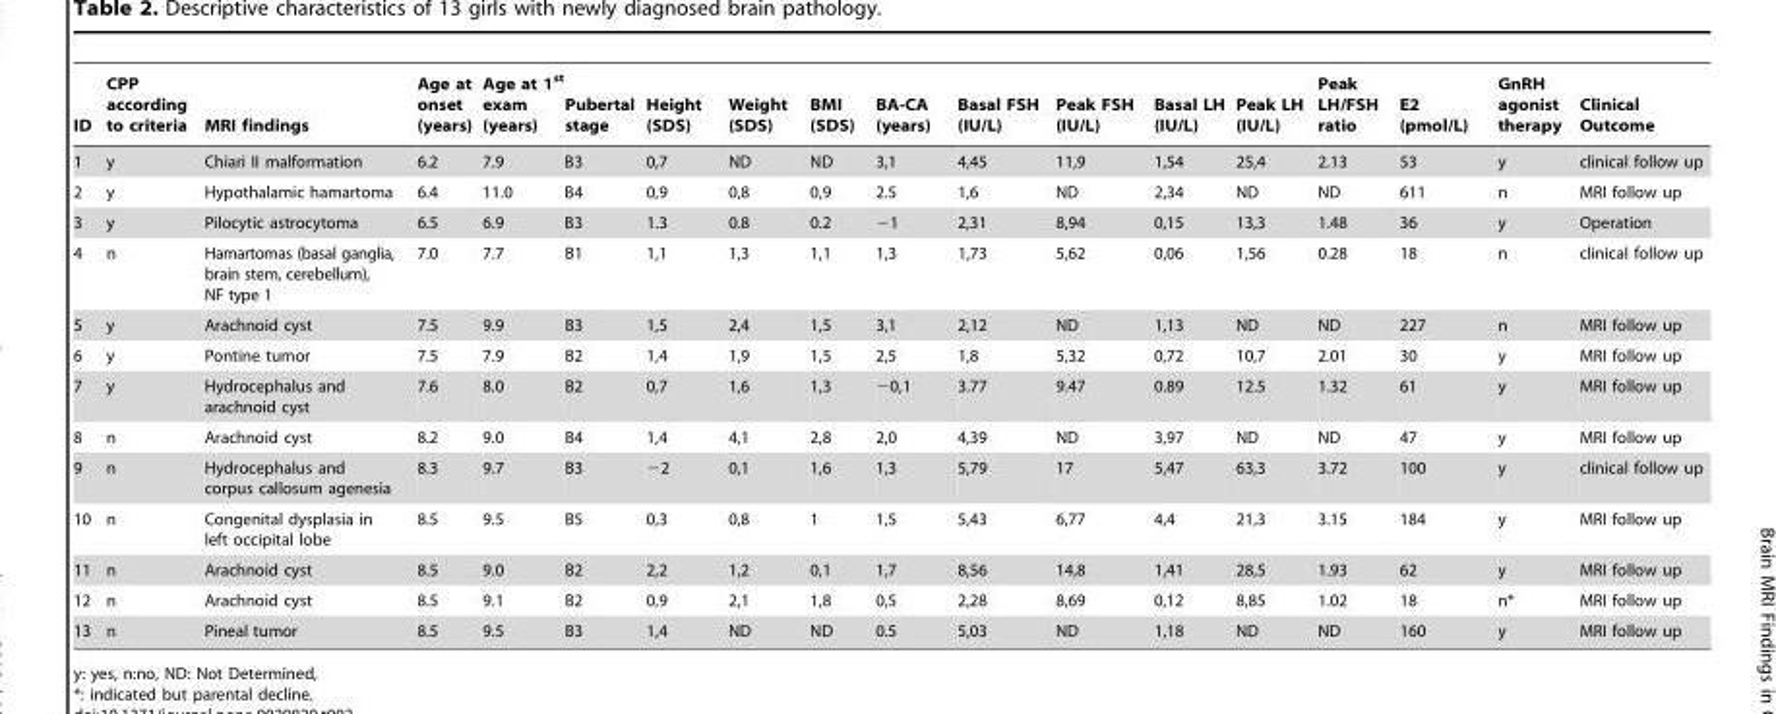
<table><thead><tr><td>ID</td><td>CPP according to criteria</td><td>MRI findings</td><td>Age at onset (years)</td><td>Age at 1<sup>st</sup> exam (years)</td><td>Pubertal stage</td><td>Height (SDS)</td><td>Weight (SDS)</td><td>BMI (SDS)</td><td>BA-CA (years)</td><td>Basal FSH (IU/L)</td><td>Peak FSH (IU/L)</td><td>Basal LH (IU/L)</td><td>Peak LH (IU/L)</td><td>Peak LH/FSH ratio</td><td>E2 (pmol/L)</td><td>GnRH agonist therapy</td><td>Clinical Outcome</td></tr></thead><tbody><tr><td>1</td><td>y</td><td>Chiari II malformation</td><td>6.2</td><td>7.9</td><td>B3</td><td>0,7</td><td>ND</td><td>ND</td><td>3,1</td><td>4,45</td><td>11,9</td><td>1,54</td><td>25,4</td><td>2.13</td><td>53</td><td>y</td><td>clinical follow up</td></tr><tr><td>2</td><td>y</td><td>Hypothalamic hamartoma</td><td>6.4</td><td>11.0</td><td>B4</td><td>0,9</td><td>0,8</td><td>0,9</td><td>2.5</td><td>1,6</td><td>ND</td><td>2,34</td><td>ND</td><td>ND</td><td>611</td><td>n</td><td>MRI follow up</td></tr><tr><td>3</td><td>y</td><td>Pilocytic astrocytoma</td><td>6.5</td><td>6.9</td><td>B3</td><td>1.3</td><td>0.8</td><td>0.2</td><td>−1</td><td>2,31</td><td>8,94</td><td>0,15</td><td>13,3</td><td>1.48</td><td>36</td><td>y</td><td>Operation</td></tr><tr><td>4</td><td>n</td><td>Hamartomas (basal ganglia, brain stem, cerebellum), NF type 1</td><td>7.0</td><td>7.7</td><td>B1</td><td>1,1</td><td>1,3</td><td>1,1</td><td>1,3</td><td>1,73</td><td>5,62</td><td>0,06</td><td>1,56</td><td>0.28</td><td>18</td><td>n</td><td>clinical follow up</td></tr><tr><td>5</td><td>y</td><td>Arachnoid cyst</td><td>7.5</td><td>9.9</td><td>B3</td><td>1,5</td><td>2,4</td><td>1,5</td><td>3,1</td><td>2,12</td><td>ND</td><td>1,13</td><td>ND</td><td>ND</td><td>227</td><td>n</td><td>MRI follow up</td></tr><tr><td>6</td><td>y</td><td>Pontine tumor</td><td>7.5</td><td>7.9</td><td>B2</td><td>1,4</td><td>1,9</td><td>1,5</td><td>2,5</td><td>1,8</td><td>5,32</td><td>0,72</td><td>10,7</td><td>2.01</td><td>30</td><td>y</td><td>MRI follow up</td></tr><tr><td>7</td><td>y</td><td>Hydrocephalus and arachnoid cyst</td><td>7.6</td><td>8.0</td><td>B2</td><td>0,7</td><td>1,6</td><td>1,3</td><td>−0,1</td><td>3.77</td><td>9.47</td><td>0.89</td><td>12.5</td><td>1.32</td><td>61</td><td>y</td><td>MRI follow up</td></tr><tr><td>8</td><td>n</td><td>Arachnoid cyst</td><td>8.2</td><td>9.0</td><td>B4</td><td>1,4</td><td>4,1</td><td>2,8</td><td>2,0</td><td>4,39</td><td>ND</td><td>3,97</td><td>ND</td><td>ND</td><td>47</td><td>y</td><td>MRI follow up</td></tr><tr><td>9</td><td>n</td><td>Hydrocephalus and corpus callosum agenesia</td><td>8.3</td><td>9.7</td><td>B3</td><td>−2</td><td>0,1</td><td>1,6</td><td>1,3</td><td>5,79</td><td>17</td><td>5,47</td><td>63,3</td><td>3.72</td><td>100</td><td>y</td><td>clinical follow up</td></tr><tr><td>10</td><td>n</td><td>Congenital dysplasia in left occipital lobe</td><td>8.5</td><td>9.5</td><td>B5</td><td>0,3</td><td>0,8</td><td>1</td><td>1,5</td><td>5,43</td><td>6,77</td><td>4,4</td><td>21,3</td><td>3.15</td><td>184</td><td>y</td><td>MRI follow up</td></tr><tr><td>11</td><td>n</td><td>Arachnoid cyst</td><td>8.5</td><td>9.0</td><td>B2</td><td>2,2</td><td>1,2</td><td>0,1</td><td>1,7</td><td>8,56</td><td>14,8</td><td>1,41</td><td>28,5</td><td>1.93</td><td>62</td><td>y</td><td>MRI follow up</td></tr><tr><td>12</td><td>n</td><td>Arachnoid cyst</td><td>8.5</td><td>9.1</td><td>B2</td><td>0,9</td><td>2,1</td><td>1,8</td><td>0,5</td><td>2,28</td><td>8,69</td><td>0,12</td><td>8,85</td><td>1.02</td><td>18</td><td>n*</td><td>MRI follow up</td></tr><tr><td>13</td><td>n</td><td>Pineal tumor</td><td>8.5</td><td>9.5</td><td>B3</td><td>1,4</td><td>ND</td><td>ND</td><td>0.5</td><td>5,03</td><td>ND</td><td>1,18</td><td>ND</td><td>ND</td><td>160</td><td>y</td><td>MRI follow up</td></tr></tbody></table>